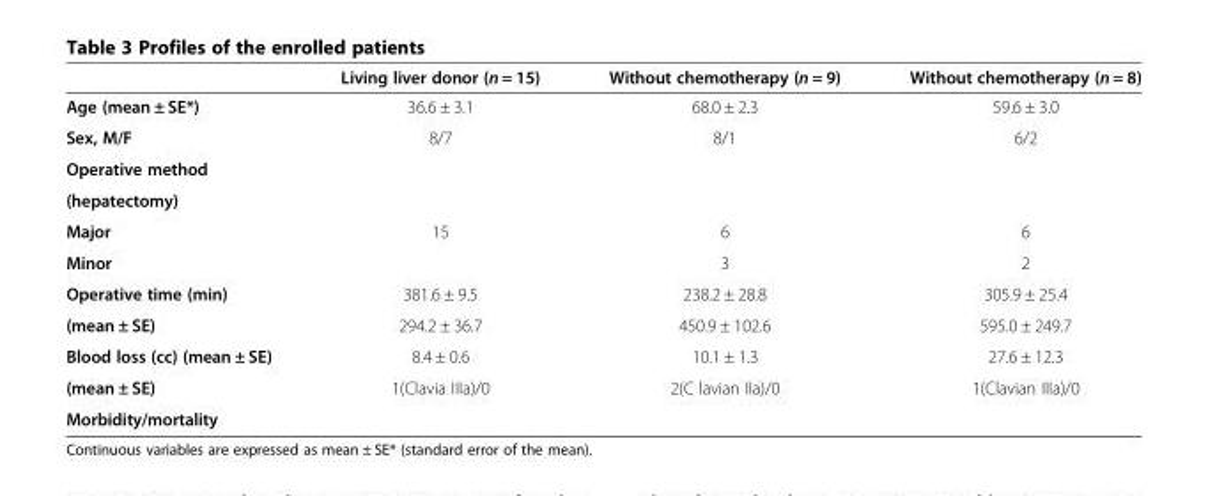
<table><thead><tr><td></td><td>Living liver donor (n = 15)</td><td>Without chemotherapy (n = 9)</td><td>Without chemotherapy (n = 8)</td></tr></thead><tbody><tr><td>Age (mean ± SE*)</td><td>36.6 ± 3.1</td><td>68.0 ± 2.3</td><td>59.6 ± 3.0</td></tr><tr><td>Sex, M/F</td><td>8/7</td><td>8/1</td><td>6/2</td></tr><tr><td colspan="4">Operative method</td></tr><tr><td colspan="4">(hepatectomy)</td></tr><tr><td>Major</td><td>15</td><td>6</td><td>6</td></tr><tr><td>Minor</td><td></td><td>3</td><td>2</td></tr><tr><td>Operative time (min)</td><td>381.6 ± 9.5</td><td>238.2 ± 28.8</td><td>305.9 ± 25.4</td></tr><tr><td>(mean ± SE)</td><td>294.2 ± 36.7</td><td>450.9 ± 102.6</td><td>595.0 ± 249.7</td></tr><tr><td>Blood loss (cc) (mean ± SE)</td><td>8.4 ± 0.6</td><td>10.1 ± 1.3</td><td>27.6 ± 12.3</td></tr><tr><td>(mean ± SE)</td><td>1(Clavia IIIa)/0</td><td>2(C lavian IIa)/0</td><td>1(Clavian IIIa)/0</td></tr><tr><td>Morbidity/mortality</td><td></td><td></td><td></td></tr></tbody></table>